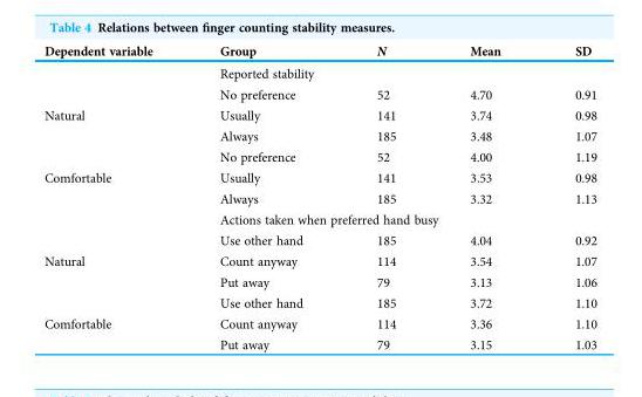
<table><thead><tr><td>Dependent variable</td><td>Group</td><td>N</td><td>Mean</td><td>SD</td></tr></thead><tbody><tr><td></td><td colspan="4">Reported stability</td></tr><tr><td></td><td>No preference</td><td>52</td><td>4.70</td><td>0.91</td></tr><tr><td rowspan="3">Natural</td><td>Usually</td><td>141</td><td>3.74</td><td>0.98</td></tr><tr><td>Always</td><td>185</td><td>3.48</td><td>1.07</td></tr><tr><td>No preference</td><td>52</td><td>4.00</td><td>1.19</td></tr><tr><td rowspan="4">Comfortable</td><td>Usually</td><td>141</td><td>3.53</td><td>0.98</td></tr><tr><td>Always</td><td>185</td><td>3.32</td><td>1.13</td></tr><tr><td colspan="4">Actions taken when preferred hand busy</td></tr><tr><td>Use other hand</td><td>185</td><td>4.04</td><td>0.92</td></tr><tr><td rowspan="3">Natural</td><td>Count anyway</td><td>114</td><td>3.54</td><td>1.07</td></tr><tr><td>Put away</td><td>79</td><td>3.13</td><td>1.06</td></tr><tr><td>Use other hand</td><td>185</td><td>3.72</td><td>1.10</td></tr><tr><td rowspan="2">Comfortable</td><td>Count anyway</td><td>114</td><td>3.36</td><td>1.10</td></tr><tr><td>Put away</td><td>79</td><td>3.15</td><td>1.03</td></tr></tbody></table>